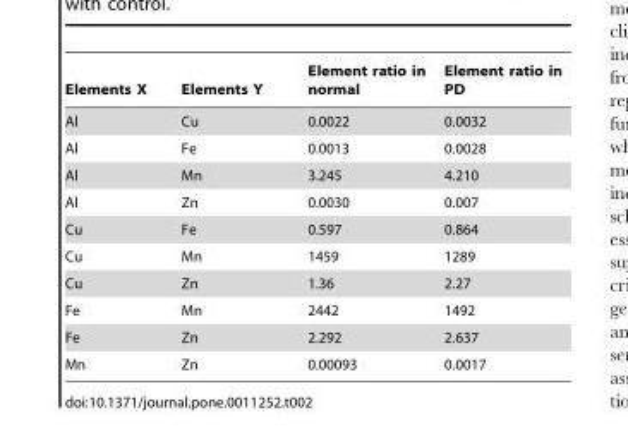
<table><thead><tr><td>Elements X</td><td>Elements Y</td><td>Element ratio in normal</td><td>Element ratio in PD</td></tr></thead><tbody><tr><td>Al</td><td>Cu</td><td>0.0022</td><td>0.0032</td></tr><tr><td>Al</td><td>Fe</td><td>0.0013</td><td>0.0028</td></tr><tr><td>Al</td><td>Mn</td><td>3.245</td><td>4.210</td></tr><tr><td>Al</td><td>Zn</td><td>0.0030</td><td>0.007</td></tr><tr><td>Cu</td><td>Fe</td><td>0.597</td><td>0.864</td></tr><tr><td>Cu</td><td>Mn</td><td>1459</td><td>1289</td></tr><tr><td>Cu</td><td>Zn</td><td>1.36</td><td>2.27</td></tr><tr><td>Fe</td><td>Mn</td><td>2442</td><td>1492</td></tr><tr><td>Fe</td><td>Zn</td><td>2.292</td><td>2.637</td></tr><tr><td>Mn</td><td>Zn</td><td>0.00093</td><td>0.0017</td></tr></tbody></table>